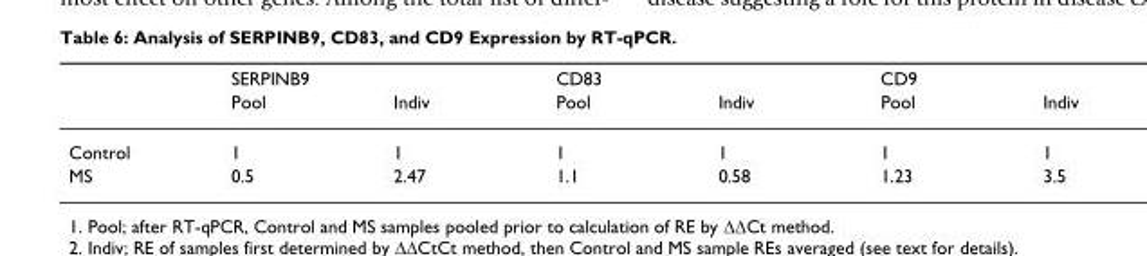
<table><thead><tr><td rowspan="2"></td><td colspan="2">SERPINB9</td><td colspan="2">CD83</td><td colspan="2">CD9</td></tr><tr><td>Pool</td><td>Indiv</td><td>Pool</td><td>Indiv</td><td>Pool</td><td>Indiv</td></tr></thead><tbody><tr><td>Control</td><td>1</td><td>1</td><td>1</td><td>1</td><td>1</td><td>1</td></tr><tr><td>MS</td><td>0.5</td><td>2.47</td><td>1.1</td><td>0.58</td><td>1.23</td><td>3.5</td></tr></tbody></table>